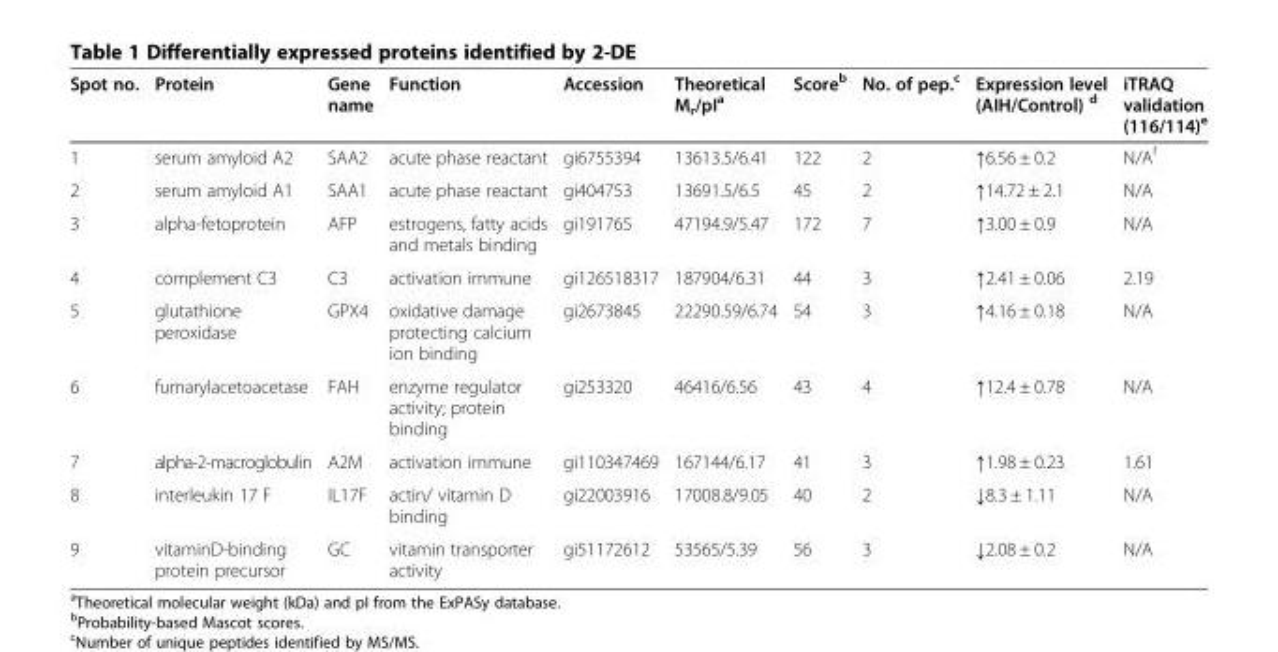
<table><thead><tr><td>Spot no.</td><td>Protein</td><td>Gene name</td><td>Function</td><td>Accession</td><td>Theoretical M<sub>r</sub>/pI<sup>a</sup></td><td>Score<sup>b</sup></td><td>No. of pep.<sup>c</sup></td><td>Expression level (AIH/Control) <sup>d</sup></td><td>iTRAQ validation (116/114)<sup>e</sup></td></tr></thead><tbody><tr><td>1</td><td>serum amyloid A2</td><td>SAA2</td><td>acute phase reactant</td><td>gi6755394</td><td>13613.5/6.41</td><td>122</td><td>2</td><td>↑6.56 ± 0.2</td><td>N/A<sup>f</sup></td></tr><tr><td>2</td><td>serum amyloid A1</td><td>SAA1</td><td>acute phase reactant</td><td>gi404753</td><td>13691.5/6.5</td><td>45</td><td>2</td><td>↑14.72 ± 2.1</td><td>N/A</td></tr><tr><td>3</td><td>alpha-fetoprotein</td><td>AFP</td><td>estrogens, fatty acids and metals binding</td><td>gi191765</td><td>47194.9/5.47</td><td>172</td><td>7</td><td>↑3.00 ± 0.9</td><td>N/A</td></tr><tr><td>4</td><td>complement C3</td><td>C3</td><td>activation immune</td><td>gi126518317</td><td>187904/6.31</td><td>44</td><td>3</td><td>↑2.41 ± 0.06</td><td>2.19</td></tr><tr><td>5</td><td>glutathione peroxidase</td><td>GPX4</td><td>oxidative damage protecting calcium ion binding</td><td>gi2673845</td><td>22290.59/6.74</td><td>54</td><td>3</td><td>↑4.16 ± 0.18</td><td>N/A</td></tr><tr><td>6</td><td>fumarylacetoacetase</td><td>FAH</td><td>enzyme regulator activity; protein binding</td><td>gi253320</td><td>46416/6.56</td><td>43</td><td>4</td><td>↑12.4 ± 0.78</td><td>N/A</td></tr><tr><td>7</td><td>alpha-2-macroglobulin</td><td>A2M</td><td>activation immune</td><td>gi110347469</td><td>167144/6.17</td><td>41</td><td>3</td><td>↑1.98 ± 0.23</td><td>1.61</td></tr><tr><td>8</td><td>interleukin 17 F</td><td>IL17F</td><td>actin/ vitamin D binding</td><td>gi22003916</td><td>17008.8/9.05</td><td>40</td><td>2</td><td>↓8.3 ± 1.11</td><td>N/A</td></tr><tr><td>9</td><td>vitaminD-binding protein precursor</td><td>GC</td><td>vitamin transporter activity</td><td>gi51172612</td><td>53565/5.39</td><td>56</td><td>3</td><td>↓2.08 ± 0.2</td><td>N/A</td></tr></tbody></table>